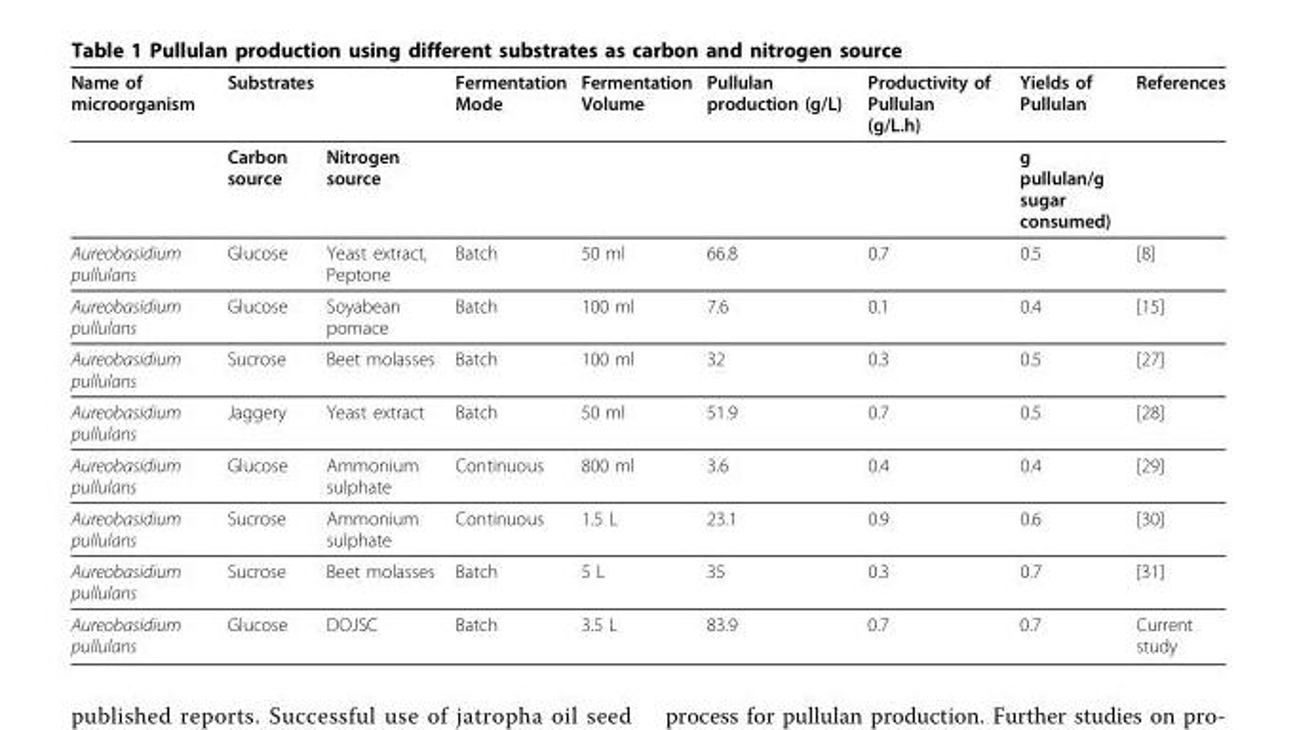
<table><thead><tr><td rowspan="2">Name of microorganism</td><td colspan="2">Substrates</td><td rowspan="2">Fermentation Mode</td><td rowspan="2">Fermentation Volume</td><td rowspan="2">Pullulan production (g/L)</td><td rowspan="2">Productivity of Pullulan (g/L.h)</td><td rowspan="2">Yields of Pullulan g pullulan/g sugar consumed)</td><td rowspan="2">References</td></tr><tr><td>Carbon source</td><td>Nitrogen source</td></tr></thead><tbody><tr><td>Aureobasidium pullulans</td><td>Glucose</td><td>Yeast extract, Peptone</td><td>Batch</td><td>50 ml</td><td>66.8</td><td>0.7</td><td>0.5</td><td>[8]</td></tr><tr><td>Aureobasidium pullulans</td><td>Glucose</td><td>Soyabean pomace</td><td>Batch</td><td>100 ml</td><td>7.6</td><td>0.1</td><td>0.4</td><td>[15]</td></tr><tr><td>Aureobasidium pullulans</td><td>Sucrose</td><td>Beet molasses</td><td>Batch</td><td>100 ml</td><td>32</td><td>0.3</td><td>0.5</td><td>[27]</td></tr><tr><td>Aureobasidium pullulans</td><td>Jaggery</td><td>Yeast extract</td><td>Batch</td><td>50 ml</td><td>51.9</td><td>0.7</td><td>0.5</td><td>[28]</td></tr><tr><td>Aureobasidium pullulans</td><td>Glucose</td><td>Ammonium sulphate</td><td>Continuous</td><td>800 ml</td><td>3.6</td><td>0.4</td><td>0.4</td><td>[29]</td></tr><tr><td>Aureobasidium pullulans</td><td>Sucrose</td><td>Ammonium sulphate</td><td>Continuous</td><td>1.5 L</td><td>23.1</td><td>0.9</td><td>0.6</td><td>[30]</td></tr><tr><td>Aureobasidium pullulans</td><td>Sucrose</td><td>Beet molasses</td><td>Batch</td><td>5 L</td><td>35</td><td>0.3</td><td>0.7</td><td>[31]</td></tr><tr><td>Aureobasidium pullulans</td><td>Glucose</td><td>DOJSC</td><td>Batch</td><td>3.5 L</td><td>83.9</td><td>0.7</td><td>0.7</td><td>Current study</td></tr></tbody></table>